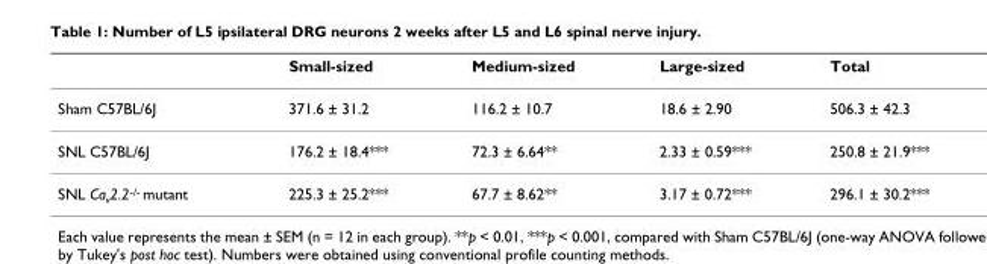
<table><thead><tr><td></td><td>Small-sized</td><td>Medium-sized</td><td>Large-sized</td><td>Total</td></tr></thead><tbody><tr><td>Sham C57BL/6J</td><td>371.6 ± 31.2</td><td>116.2 ± 10.7</td><td>18.6 ± 2.90</td><td>506.3 ± 42.3</td></tr><tr><td>SNL C57BL/6J</td><td>176.2 ± 18.4***</td><td>72.3 ± 6.64**</td><td>2.33 ± 0.59***</td><td>250.8 ± 21.9***</td></tr><tr><td>SNL Ca<sub>v</sub>2.2<sup>-/-</sup> mutant</td><td>225.3 ± 25.2***</td><td>67.7 ± 8.62**</td><td>3.17 ± 0.72***</td><td>296.1 ± 30.2***</td></tr></tbody></table>